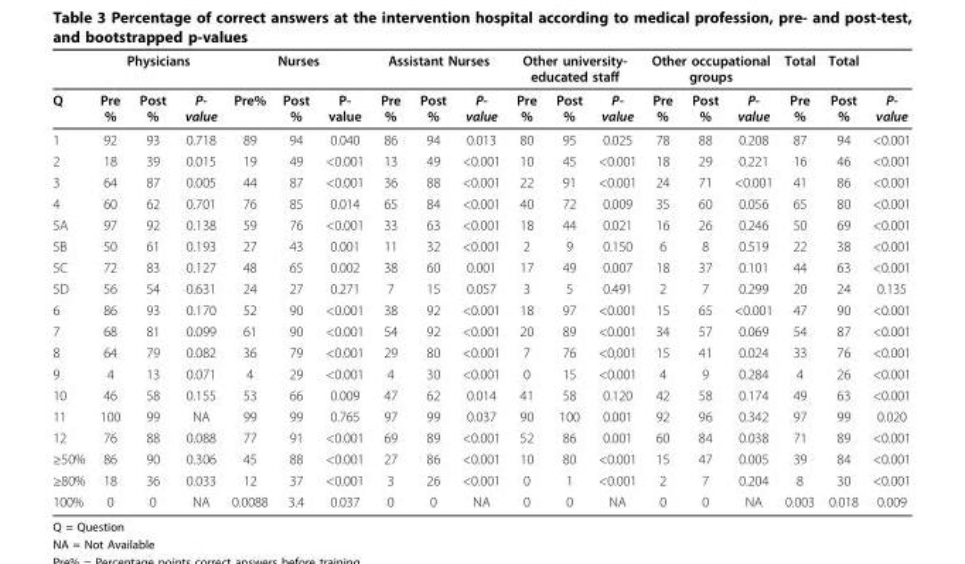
<table><thead><tr><td rowspan="2">Q</td><td colspan="3">Physicians</td><td colspan="3">Nurses</td><td colspan="3">Assistant Nurses</td><td colspan="3">Other university- educated staff</td><td colspan="3">Other occupational groups</td><td rowspan="2">Total Pre %</td><td rowspan="2">Total Post %</td><td rowspan="2">P- value</td></tr><tr><td>Pre %</td><td>Post %</td><td>P- value</td><td>Pre%</td><td>Post %</td><td>P- value</td><td>Pre %</td><td>Post %</td><td>P- value</td><td>Pre %</td><td>Post %</td><td>P- value</td><td>Pre %</td><td>Post %</td><td>P- value</td></tr></thead><tbody><tr><td>1</td><td>92</td><td>93</td><td>0.718</td><td>89</td><td>94</td><td>0.040</td><td>86</td><td>94</td><td>0.013</td><td>80</td><td>95</td><td>0.025</td><td>78</td><td>88</td><td>0.208</td><td>87</td><td>94</td><td>&lt;0.001</td></tr><tr><td>2</td><td>18</td><td>39</td><td>0.015</td><td>19</td><td>49</td><td>&lt;0.001</td><td>13</td><td>49</td><td>&lt;0.001</td><td>10</td><td>45</td><td>&lt;0.001</td><td>18</td><td>29</td><td>0.221</td><td>16</td><td>46</td><td>&lt;0.001</td></tr><tr><td>3</td><td>64</td><td>87</td><td>0.005</td><td>44</td><td>87</td><td>&lt;0.001</td><td>36</td><td>88</td><td>&lt;0.001</td><td>22</td><td>91</td><td>&lt;0.001</td><td>24</td><td>71</td><td>&lt;0.001</td><td>41</td><td>86</td><td>&lt;0.001</td></tr><tr><td>4</td><td>60</td><td>62</td><td>0.701</td><td>76</td><td>85</td><td>0.014</td><td>65</td><td>84</td><td>&lt;0.001</td><td>40</td><td>72</td><td>0.009</td><td>35</td><td>60</td><td>0.056</td><td>65</td><td>80</td><td>&lt;0.001</td></tr><tr><td>5A</td><td>97</td><td>92</td><td>0.138</td><td>59</td><td>76</td><td>&lt;0.001</td><td>33</td><td>63</td><td>&lt;0.001</td><td>18</td><td>44</td><td>0.021</td><td>16</td><td>26</td><td>0.246</td><td>50</td><td>69</td><td>&lt;0.001</td></tr><tr><td>5B</td><td>50</td><td>61</td><td>0.193</td><td>27</td><td>43</td><td>0.001</td><td>11</td><td>32</td><td>&lt;0.001</td><td>2</td><td>9</td><td>0.150</td><td>6</td><td>8</td><td>0.519</td><td>22</td><td>38</td><td>&lt;0.001</td></tr><tr><td>5C</td><td>72</td><td>83</td><td>0.127</td><td>48</td><td>65</td><td>0.002</td><td>38</td><td>60</td><td>0.001</td><td>17</td><td>49</td><td>0.007</td><td>18</td><td>37</td><td>0.101</td><td>44</td><td>63</td><td>&lt;0.001</td></tr><tr><td>5D</td><td>56</td><td>54</td><td>0.631</td><td>24</td><td>27</td><td>0.271</td><td>7</td><td>15</td><td>0.057</td><td>3</td><td>5</td><td>0.491</td><td>2</td><td>7</td><td>0.299</td><td>20</td><td>24</td><td>0.135</td></tr><tr><td>6</td><td>86</td><td>93</td><td>0.170</td><td>52</td><td>90</td><td>&lt;0.001</td><td>38</td><td>92</td><td>&lt;0.001</td><td>18</td><td>97</td><td>&lt;0.001</td><td>15</td><td>65</td><td>&lt;0.001</td><td>47</td><td>90</td><td>&lt;0.001</td></tr><tr><td>7</td><td>68</td><td>81</td><td>0.099</td><td>61</td><td>90</td><td>&lt;0.001</td><td>54</td><td>92</td><td>&lt;0.001</td><td>20</td><td>89</td><td>&lt;0.001</td><td>34</td><td>57</td><td>0.069</td><td>54</td><td>87</td><td>&lt;0.001</td></tr><tr><td>8</td><td>64</td><td>79</td><td>0.082</td><td>36</td><td>79</td><td>&lt;0.001</td><td>29</td><td>80</td><td>&lt;0.001</td><td>7</td><td>76</td><td>&lt;0,001</td><td>15</td><td>41</td><td>0.024</td><td>33</td><td>76</td><td>&lt;0.001</td></tr><tr><td>9</td><td>4</td><td>13</td><td>0.071</td><td>4</td><td>29</td><td>&lt;0.001</td><td>4</td><td>30</td><td>&lt;0.001</td><td>0</td><td>15</td><td>&lt;0.001</td><td>4</td><td>9</td><td>0.284</td><td>4</td><td>26</td><td>&lt;0.001</td></tr><tr><td>10</td><td>46</td><td>58</td><td>0.155</td><td>53</td><td>66</td><td>0.009</td><td>47</td><td>62</td><td>0.014</td><td>41</td><td>58</td><td>0.120</td><td>42</td><td>58</td><td>0.174</td><td>49</td><td>63</td><td>&lt;0.001</td></tr><tr><td>11</td><td>100</td><td>99</td><td>NA</td><td>99</td><td>99</td><td>0.765</td><td>97</td><td>99</td><td>0.037</td><td>90</td><td>100</td><td>0.001</td><td>92</td><td>96</td><td>0.342</td><td>97</td><td>99</td><td>0.020</td></tr><tr><td>12</td><td>76</td><td>88</td><td>0.088</td><td>77</td><td>91</td><td>&lt;0.001</td><td>69</td><td>89</td><td>&lt;0.001</td><td>52</td><td>86</td><td>0.001</td><td>60</td><td>84</td><td>0.038</td><td>71</td><td>89</td><td>&lt;0.001</td></tr><tr><td>≥50%</td><td>86</td><td>90</td><td>0.306</td><td>45</td><td>88</td><td>&lt;0.001</td><td>27</td><td>86</td><td>&lt;0.001</td><td>10</td><td>80</td><td>&lt;0.001</td><td>15</td><td>47</td><td>0.005</td><td>39</td><td>84</td><td>&lt;0.001</td></tr><tr><td>≥80%</td><td>18</td><td>36</td><td>0.033</td><td>12</td><td>37</td><td>&lt;0.001</td><td>3</td><td>26</td><td>&lt;0.001</td><td>0</td><td>1</td><td>&lt;0.001</td><td>2</td><td>7</td><td>0.204</td><td>8</td><td>30</td><td>&lt;0.001</td></tr><tr><td>100%</td><td>0</td><td>0</td><td>NA</td><td>0.0088</td><td>3.4</td><td>0.037</td><td>0</td><td>0</td><td>NA</td><td>0</td><td>0</td><td>NA</td><td>0</td><td>0</td><td>NA</td><td>0.003</td><td>0.018</td><td>0.009</td></tr></tbody></table>